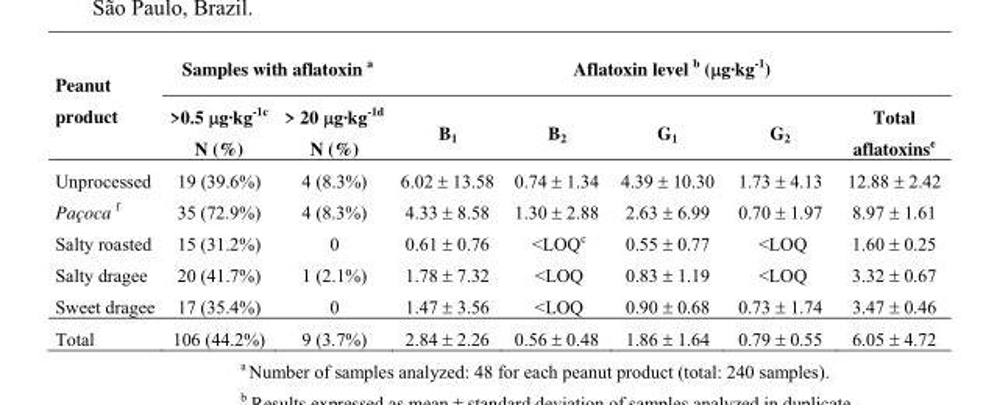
<table><thead><tr><td rowspan="2">Peanut product</td><td colspan="2">Samples with aflatoxin <sup>a</sup></td><td colspan="5">Aflatoxin level <sup>b</sup> (μg·kg<sup>-1</sup>)</td></tr><tr><td>&gt;0.5 μg·kg<sup>-1c</sup> N (%)</td><td>&gt; 20 μg·kg<sup>-1d</sup> N (%)</td><td>B<sub>1</sub></td><td>B<sub>2</sub></td><td>G<sub>1</sub></td><td>G<sub>2</sub></td><td>Total aflatoxins<sup>e</sup></td></tr></thead><tbody><tr><td>Unprocessed</td><td>19 (39.6%)</td><td>4 (8.3%)</td><td>6.02 ± 13.58</td><td>0.74 ± 1.34</td><td>4.39 ± 10.30</td><td>1.73 ± 4.13</td><td>12.88 ± 2.42</td></tr><tr><td>Paçoca <sup>f</sup></td><td>35 (72.9%)</td><td>4 (8.3%)</td><td>4.33 ± 8.58</td><td>1.30 ± 2.88</td><td>2.63 ± 6.99</td><td>0.70 ± 1.97</td><td>8.97 ± 1.61</td></tr><tr><td>Salty roasted</td><td>15 (31.2%)</td><td>0</td><td>0.61 ± 0.76</td><td>&lt;LOQ<sup>c</sup></td><td>0.55 ± 0.77</td><td>&lt;LOQ</td><td>1.60 ± 0.25</td></tr><tr><td>Salty dragee</td><td>20 (41.7%)</td><td>1 (2.1%)</td><td>1.78 ± 7.32</td><td>&lt;LOQ</td><td>0.83 ± 1.19</td><td>&lt;LOQ</td><td>3.32 ± 0.67</td></tr><tr><td>Sweet dragee</td><td>17 (35.4%)</td><td>0</td><td>1.47 ± 3.56</td><td>&lt;LOQ</td><td>0.90 ± 0.68</td><td>0.73 ± 1.74</td><td>3.47 ± 0.46</td></tr><tr><td>Total</td><td>106 (44.2%)</td><td>9 (3.7%)</td><td>2.84 ± 2.26</td><td>0.56 ± 0.48</td><td>1.86 ± 1.64</td><td>0.79 ± 0.55</td><td>6.05 ± 4.72</td></tr></tbody></table>